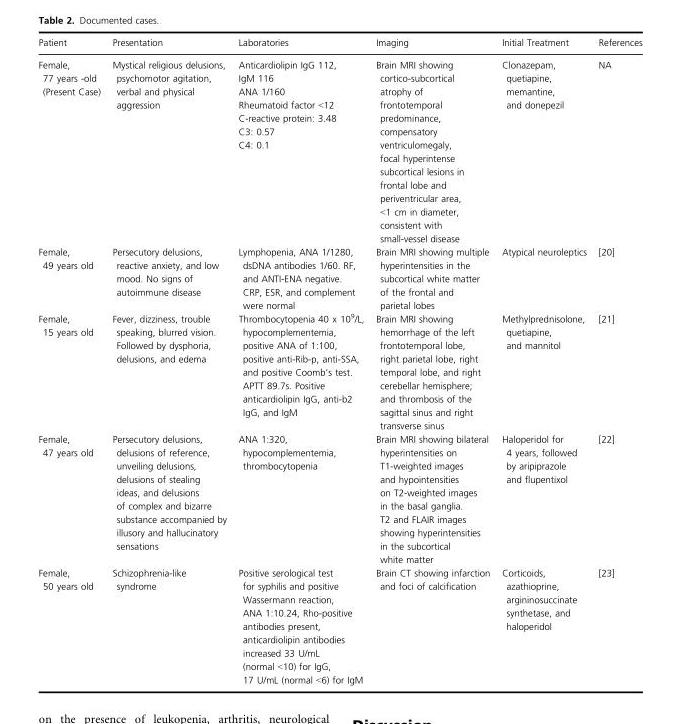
<table><thead><tr><td>Patient</td><td>Presentation</td><td>Laboratories</td><td>Imaging</td><td>Initial Treatment</td><td>References</td></tr></thead><tbody><tr><td>Female, 77 years -old (Present Case)</td><td>Mystical religious delusions, psychomotor agitation, verbal and physical aggression</td><td>Anticardiolipin IgG 112, IgM 116 ANA 1/160 Rheumatoid factor &lt;12 C-reactive protein: 3.48 C3: 0.57 C4: 0.1</td><td>Brain MRI showing cortico-subcortical atrophy of frontotemporal predominance, compensatory ventriculomegaly, focal hyperintense subcortical lesions in frontal lobe and periventricular area, &lt;1 cm in diameter, consistent with small-vessel disease</td><td>Clonazepam, quetiapine, memantine, and donepezil</td><td>NA</td></tr><tr><td>Female, 49 years old</td><td>Persecutory delusions, reactive anxiety, and low mood. No signs of autoimmune disease</td><td>Lymphopenia, ANA 1/1280, dsDNA antibodies 1/60. RF, and ANTI-ENA negative. CRP, ESR, and complement were normal</td><td>Brain MRI showing multiple hyperintensities in the subcortical white matter of the frontal and parietal lobes</td><td>Atypical neuroleptics</td><td>[20]</td></tr><tr><td>Female, 15 years old</td><td>Fever, dizziness, trouble speaking, blurred vision. Followed by dysphoria, delusions, and edema</td><td>Thrombocytopenia 40 x 10<sup>9</sup>/L, hypocomplementemia, positive ANA of 1:100, positive anti-Rib-p, anti-SSA, and positive Coomb’s test. APTT 89.7s. Positive anticardiolipin IgG, anti-b2 IgG, and IgM</td><td>Brain MRI showing hemorrhage of the left frontotemporal lobe, right parietal lobe, right temporal lobe, and right cerebellar hemisphere; and thrombosis of the sagittal sinus and right transverse sinus</td><td>Methylprednisolone, quetiapine, and mannitol</td><td>[21]</td></tr><tr><td>Female, 47 years old</td><td>Persecutory delusions, delusions of reference, unveiling delusions, delusions of stealing ideas, and delusions of complex and bizarre substance accompanied by illusory and hallucinatory sensations</td><td>ANA 1:320, hypocomplementemia, thrombocytopenia</td><td>Brain MRI showing bilateral hyperintensities on T1-weighted images and hypointensities on T2-weighted images in the basal ganglia. T2 and FLAIR images showing hyperintensities in the subcortical white matter</td><td>Haloperidol for 4 years, followed by aripiprazole and flupentixol</td><td>[22]</td></tr><tr><td>Female, 50 years old</td><td>Schizophrenia-like syndrome</td><td>Positive serological test for syphilis and positive Wassermann reaction, ANA 1:10.24, Rho-positive antibodies present, anticardiolipin antibodies increased 33 U/mL (normal &lt;10) for IgG, 17 U/mL (normal &lt;6) for IgM</td><td>Brain CT showing infarction and foci of calcification</td><td>Corticoids, azathioprine, argininosuccinate synthetase, and haloperidol</td><td>[23]</td></tr></tbody></table>